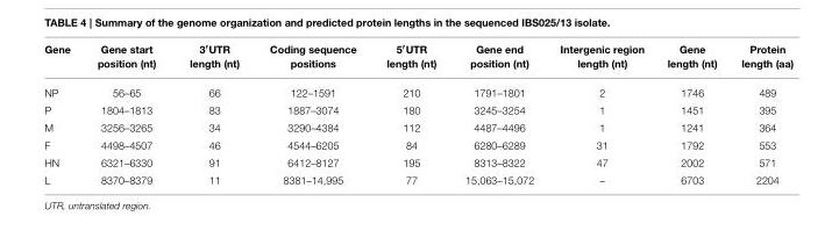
<table><thead><tr><td>Gene</td><td>Gene start position (nt)</td><td>3′UTR length (nt)</td><td>Coding sequence positions</td><td>5′UTR length (nt)</td><td>Gene end position (nt)</td><td>Intergenic region length (nt)</td><td>Gene length (nt)</td><td>Protein length (aa)</td></tr></thead><tbody><tr><td>NP</td><td>56–65</td><td>66</td><td>122–1591</td><td>210</td><td>1791–1801</td><td>2</td><td>1746</td><td>489</td></tr><tr><td>P</td><td>1804–1813</td><td>83</td><td>1887–3074</td><td>180</td><td>3245–3254</td><td>1</td><td>1451</td><td>395</td></tr><tr><td>M</td><td>3256–3265</td><td>34</td><td>3290–4384</td><td>112</td><td>4487–4496</td><td>1</td><td>1241</td><td>364</td></tr><tr><td>F</td><td>4498–4507</td><td>46</td><td>4544–6205</td><td>84</td><td>6280–6289</td><td>31</td><td>1792</td><td>553</td></tr><tr><td>HN</td><td>6321–6330</td><td>91</td><td>6412–8127</td><td>195</td><td>8313–8322</td><td>47</td><td>2002</td><td>571</td></tr><tr><td>L</td><td>8370–8379</td><td>11</td><td>8381–14,995</td><td>77</td><td>15,063–15,072</td><td>–</td><td>6703</td><td>2204</td></tr></tbody></table>